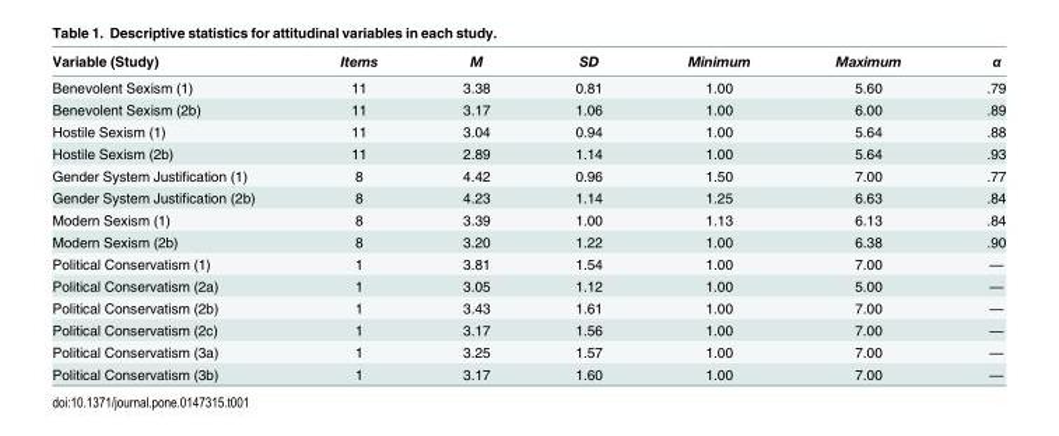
<table><thead><tr><td>Variable (Study)</td><td>Items</td><td>M</td><td>SD</td><td>Minimum</td><td>Maximum</td><td>α</td></tr></thead><tbody><tr><td>Benevolent Sexism (1)</td><td>11</td><td>3.38</td><td>0.81</td><td>1.00</td><td>5.60</td><td>.79</td></tr><tr><td>Benevolent Sexism (2b)</td><td>11</td><td>3.17</td><td>1.06</td><td>1.00</td><td>6.00</td><td>.89</td></tr><tr><td>Hostile Sexism (1)</td><td>11</td><td>3.04</td><td>0.94</td><td>1.00</td><td>5.64</td><td>.88</td></tr><tr><td>Hostile Sexism (2b)</td><td>11</td><td>2.89</td><td>1.14</td><td>1.00</td><td>5.64</td><td>.93</td></tr><tr><td>Gender System Justification (1)</td><td>8</td><td>4.42</td><td>0.96</td><td>1.50</td><td>7.00</td><td>.77</td></tr><tr><td>Gender System Justification (2b)</td><td>8</td><td>4.23</td><td>1.14</td><td>1.25</td><td>6.63</td><td>.84</td></tr><tr><td>Modern Sexism (1)</td><td>8</td><td>3.39</td><td>1.00</td><td>1.13</td><td>6.13</td><td>.84</td></tr><tr><td>Modern Sexism (2b)</td><td>8</td><td>3.20</td><td>1.22</td><td>1.00</td><td>6.38</td><td>.90</td></tr><tr><td>Political Conservatism (1)</td><td>1</td><td>3.81</td><td>1.54</td><td>1.00</td><td>7.00</td><td>—</td></tr><tr><td>Political Conservatism (2a)</td><td>1</td><td>3.05</td><td>1.12</td><td>1.00</td><td>5.00</td><td>—</td></tr><tr><td>Political Conservatism (2b)</td><td>1</td><td>3.43</td><td>1.61</td><td>1.00</td><td>7.00</td><td>—</td></tr><tr><td>Political Conservatism (2c)</td><td>1</td><td>3.17</td><td>1.56</td><td>1.00</td><td>7.00</td><td>—</td></tr><tr><td>Political Conservatism (3a)</td><td>1</td><td>3.25</td><td>1.57</td><td>1.00</td><td>7.00</td><td>—</td></tr><tr><td>Political Conservatism (3b)</td><td>1</td><td>3.17</td><td>1.60</td><td>1.00</td><td>7.00</td><td>—</td></tr></tbody></table>